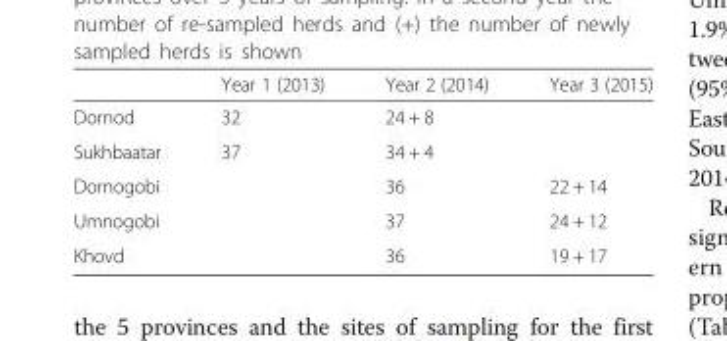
<table><thead><tr><td></td><td>Year 1 (2013)</td><td>Year 2 (2014)</td><td>Year 3 (2015)</td></tr></thead><tbody><tr><td>Dornod</td><td>32</td><td>24 + 8</td><td></td></tr><tr><td>Sukhbaatar</td><td>37</td><td>34 + 4</td><td></td></tr><tr><td>Dornogobi</td><td></td><td>36</td><td>22 + 14</td></tr><tr><td>Umnogobi</td><td></td><td>37</td><td>24 + 12</td></tr><tr><td>Khovd</td><td></td><td>36</td><td>19 + 17</td></tr></tbody></table>